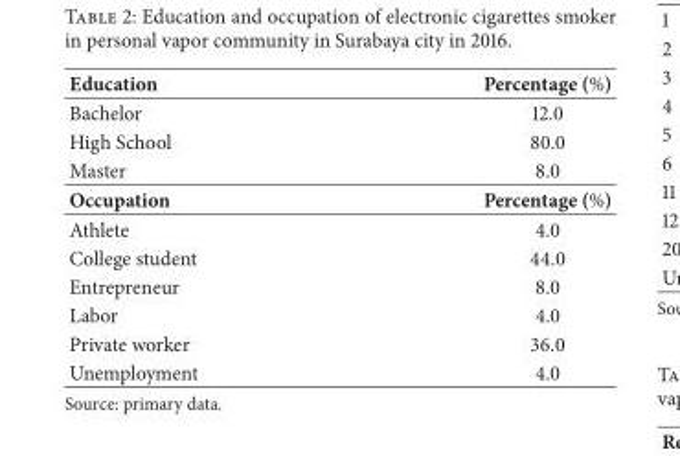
<table><tbody><tr><td>Education</td><td>Percentage (%)</td></tr><tr><td>Bachelor</td><td>12.0</td></tr><tr><td>High School</td><td>80.0</td></tr><tr><td>Master</td><td>8.0</td></tr><tr><td>Occupation</td><td>Percentage (%)</td></tr><tr><td>Athlete</td><td>4.0</td></tr><tr><td>College student</td><td>44.0</td></tr><tr><td>Entrepreneur</td><td>8.0</td></tr><tr><td>Labor</td><td>4.0</td></tr><tr><td>Private worker</td><td>36.0</td></tr><tr><td>Unemployment</td><td>4.0</td></tr></tbody></table>